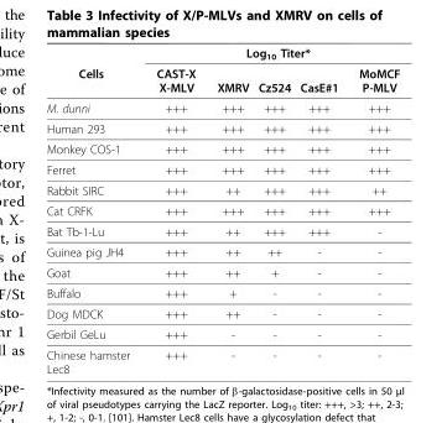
<table><thead><tr><td rowspan="2">Cells</td><td colspan="5">Log<sub>10</sub> Titer*</td></tr><tr><td>CAST-X X-MLV</td><td>XMRV</td><td>Cz524</td><td>CasE#1</td><td>MoMCF P-MLV</td></tr></thead><tbody><tr><td>M. dunni</td><td>+++</td><td>+++</td><td>+++</td><td>+++</td><td>+++</td></tr><tr><td>Human 293</td><td>+++</td><td>+++</td><td>+++</td><td>+++</td><td>+++</td></tr><tr><td>Monkey COS-1</td><td>+++</td><td>+++</td><td>+++</td><td>+++</td><td>+++</td></tr><tr><td>Ferret</td><td>+++</td><td>+++</td><td>+++</td><td>+++</td><td>+++</td></tr><tr><td>Rabbit SIRC</td><td>+++</td><td>++</td><td>+++</td><td>+++</td><td>++</td></tr><tr><td>Cat CRFK</td><td>+++</td><td>+++</td><td>+++</td><td>+++</td><td>+++</td></tr><tr><td>Bat Tb-1-Lu</td><td>+++</td><td>++</td><td>+++</td><td>+++</td><td>-</td></tr><tr><td>Guinea pig JH4</td><td>+++</td><td>++</td><td>++</td><td>-</td><td>-</td></tr><tr><td>Goat</td><td>+++</td><td>++</td><td>+</td><td>-</td><td>-</td></tr><tr><td>Buffalo</td><td>+++</td><td>+</td><td>-</td><td>-</td><td>-</td></tr><tr><td>Dog MDCK</td><td>+++</td><td>++</td><td>-</td><td>-</td><td>-</td></tr><tr><td>Gerbil GeLu</td><td>+++</td><td>-</td><td>-</td><td>-</td><td>-</td></tr><tr><td>Chinese hamster Lec8</td><td>+++</td><td>-</td><td>-</td><td>-</td><td>-</td></tr></tbody></table>